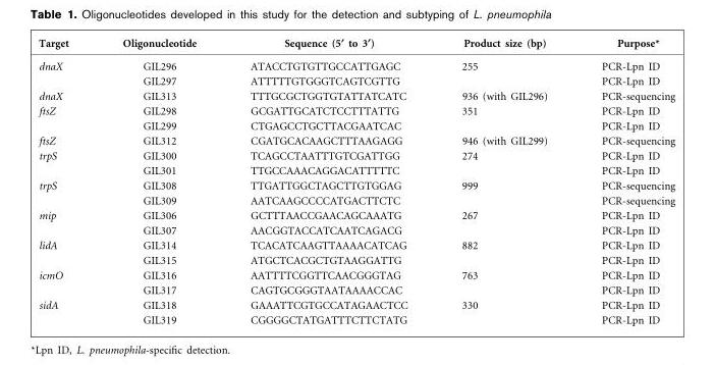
<table><thead><tr><td>Target</td><td>Oligonucleotide</td><td>Sequence (5§ to 3§)</td><td>Product size (bp)</td><td>Purpose*</td></tr></thead><tbody><tr><td rowspan="2">dnaX</td><td>GIL296</td><td>ATACCTGTGTTGCCATTGAGC</td><td>255</td><td>PCR-Lpn ID</td></tr><tr><td>GIL297</td><td>ATTTTTGTGGGTCAGTCGTTG</td><td></td><td>PCR-Lpn ID</td></tr><tr><td>dnaX</td><td>GIL313</td><td>TTTGCGCTGGTGTATTATCATC</td><td>936 (with GIL296)</td><td>PCR-sequencing</td></tr><tr><td rowspan="2">ftsZ</td><td>GIL298</td><td>GCGATTGCATCTCCTTTATTG</td><td>351</td><td>PCR-Lpn ID</td></tr><tr><td>GIL299</td><td>CTGAGCCTGCTTACGAATCAC</td><td></td><td>PCR-Lpn ID</td></tr><tr><td>ftsZ</td><td>GIL312</td><td>CGATGCACAAGCTTTAAGAGG</td><td>946 (with GIL299)</td><td>PCR-sequencing</td></tr><tr><td rowspan="2">trpS</td><td>GIL300</td><td>TCAGCCTAATTTGTCGATTGG</td><td>274</td><td>PCR-Lpn ID</td></tr><tr><td>GIL301</td><td>TTGCCAAACAGGACATTTTTC</td><td></td><td>PCR-Lpn ID</td></tr><tr><td rowspan="2">trpS</td><td>GIL308</td><td>TTGATTGGCTAGCTTGTGGAG</td><td>999</td><td>PCR-sequencing</td></tr><tr><td>GIL309</td><td>AATCAAGCCCCATGACTTCTC</td><td></td><td>PCR-sequencing</td></tr><tr><td rowspan="2">mip</td><td>GIL306</td><td>GCTTTAACCGAACAGCAAATG</td><td>267</td><td>PCR-Lpn ID</td></tr><tr><td>GIL307</td><td>AACGGTACCATCAATCAGACG</td><td></td><td>PCR-Lpn ID</td></tr><tr><td rowspan="2">lidA</td><td>GIL314</td><td>TCACATCAAGTTAAAACATCAG</td><td>882</td><td>PCR-Lpn ID</td></tr><tr><td>GIL315</td><td>ATGCTCACGCTGTAAGGATTG</td><td></td><td>PCR-Lpn ID</td></tr><tr><td rowspan="2">icmO</td><td>GIL316</td><td>AATTTTCGGTTCAACGGGTAG</td><td>763</td><td>PCR-Lpn ID</td></tr><tr><td>GIL317</td><td>CAGTGCGGGTAATAAAACCAC</td><td></td><td>PCR-Lpn ID</td></tr><tr><td rowspan="2">sidA</td><td>GIL318</td><td>GAAATTCGTGCCATAGAACTCC</td><td>330</td><td>PCR-Lpn ID</td></tr><tr><td>GIL319</td><td>CGGGGCTATGATTTCTTCTATG</td><td></td><td>PCR-Lpn ID</td></tr></tbody></table>